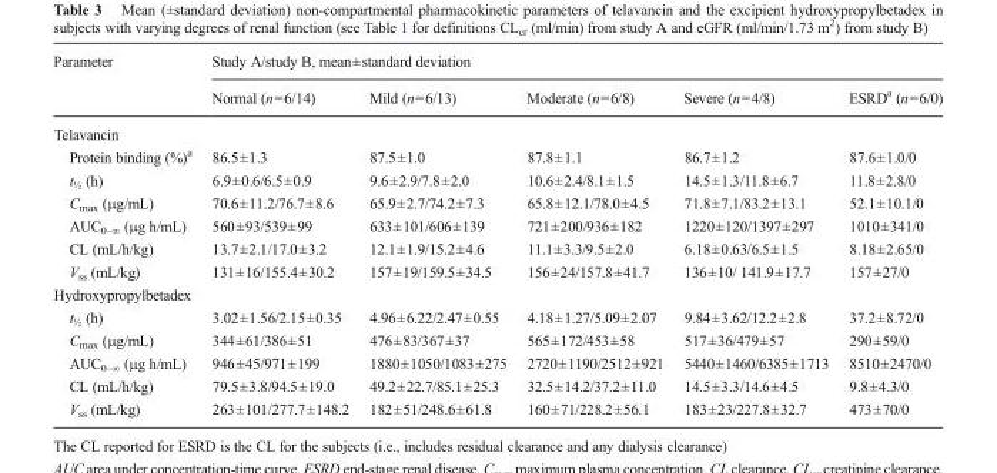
<table><thead><tr><td rowspan="2">Parameter</td><td colspan="5">Study A/study B, mean±standard deviation</td></tr><tr><td>Normal (n=6/14)</td><td>Mild (n=6/13)</td><td>Moderate (n=6/8)</td><td>Severe (n=4/8)</td><td>ESRD<sup>a</sup> (n=6/0)</td></tr></thead><tbody><tr><td colspan="6">Telavancin</td></tr><tr><td>Protein binding (%)<sup>a</sup></td><td>86.5±1.3</td><td>87.5±1.0</td><td>87.8±1.1</td><td>86.7±1.2</td><td>87.6±1.0/0</td></tr><tr><td>t<sub>½</sub> (h)</td><td>6.9±0.6/6.5±0.9</td><td>9.6±2.9/7.8±2.0</td><td>10.6±2.4/8.1±1.5</td><td>14.5±1.3/11.8±6.7</td><td>11.8±2.8/0</td></tr><tr><td>C<sub>max</sub> (μg/mL)</td><td>70.6±11.2/76.7±8.6</td><td>65.9±2.7/74.2±7.3</td><td>65.8±12.1/78.0±4.5</td><td>71.8±7.1/83.2±13.1</td><td>52.1±10.1/0</td></tr><tr><td>AUC0–∞ (μg h/mL)</td><td>560±93/539±99</td><td>633±101/606±139</td><td>721±200/936±182</td><td>1220±120/1397±297</td><td>1010±341/0</td></tr><tr><td>CL (mL/h/kg)</td><td>13.7±2.1/17.0±3.2</td><td>12.1±1.9/15.2±4.6</td><td>11.1±3.3/9.5±2.0</td><td>6.18±0.63/6.5±1.5</td><td>8.18±2.65/0</td></tr><tr><td>V<sub>ss</sub> (mL/kg)</td><td>131±16/155.4±30.2</td><td>157±19/159.5±34.5</td><td>156±24/157.8±41.7</td><td>136±10/ 141.9±17.7</td><td>157±27/0</td></tr><tr><td colspan="6">Hydroxypropylbetadex</td></tr><tr><td>t<sub>½</sub> (h)</td><td>3.02±1.56/2.15±0.35</td><td>4.96±6.22/2.47±0.55</td><td>4.18±1.27/5.09±2.07</td><td>9.84±3.62/12.2±2.8</td><td>37.2±8.72/0</td></tr><tr><td>C<sub>max</sub> (μg/mL)</td><td>344±61/386±51</td><td>476±83/367±37</td><td>565±172/453±58</td><td>517±36/479±57</td><td>290±59/0</td></tr><tr><td>AUC0–∞ (μg h/mL)</td><td>946±45/971±199</td><td>1880±1050/1083±275</td><td>2720±1190/2512±921</td><td>5440±1460/6385±1713</td><td>8510±2470/0</td></tr><tr><td>CL (mL/h/kg)</td><td>79.5±3.8/94.5±19.0</td><td>49.2±22.7/85.1±25.3</td><td>32.5±14.2/37.2±11.0</td><td>14.5±3.3/14.6±4.5</td><td>9.8±4.3/0</td></tr><tr><td>V<sub>ss</sub> (mL/kg)</td><td>263±101/277.7±148.2</td><td>182±51/248.6±61.8</td><td>160±71/228.2±56.1</td><td>183±23/227.8±32.7</td><td>473±70/0</td></tr></tbody></table>